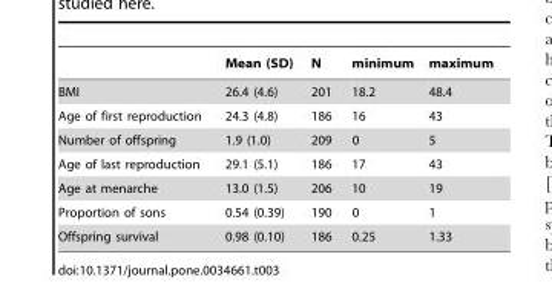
<table><thead><tr><td></td><td>Mean (SD)</td><td>N</td><td>minimum</td><td>maximum</td></tr></thead><tbody><tr><td>BMI</td><td>26.4 (4.6)</td><td>201</td><td>18.2</td><td>48.4</td></tr><tr><td>Age of first reproduction</td><td>24.3 (4.8)</td><td>186</td><td>16</td><td>43</td></tr><tr><td>Number of offspring</td><td>1.9 (1.0)</td><td>209</td><td>0</td><td>5</td></tr><tr><td>Age of last reproduction</td><td>29.1 (5.1)</td><td>186</td><td>17</td><td>43</td></tr><tr><td>Age at menarche</td><td>13.0 (1.5)</td><td>206</td><td>10</td><td>19</td></tr><tr><td>Proportion of sons</td><td>0.54 (0.39)</td><td>190</td><td>0</td><td>1</td></tr><tr><td>Offspring survival</td><td>0.98 (0.10)</td><td>186</td><td>0.25</td><td>1.33</td></tr></tbody></table>